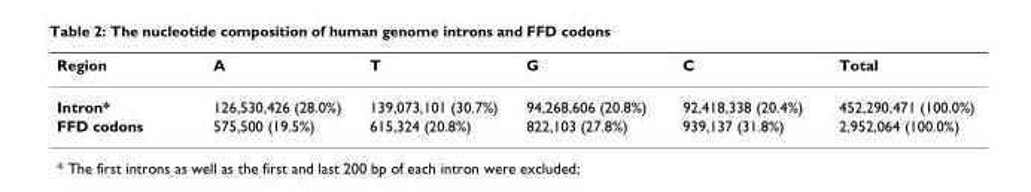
<table><thead><tr><td>Region</td><td>A</td><td>T</td><td>G</td><td>C</td><td>Total</td></tr></thead><tbody><tr><td>Intron*</td><td>126,530,426 (28.0%)</td><td>139,073,101 (30.7%)</td><td>94,268,606 (20.8%)</td><td>92,418,338 (20.4%)</td><td>452,290,471 (100.0%)</td></tr><tr><td>FFD codons</td><td>575,500 (19.5%)</td><td>615,324 (20.8%)</td><td>822,103 (27.8%)</td><td>939,137 (31.8%)</td><td>2,952,064 (100.0%)</td></tr></tbody></table>